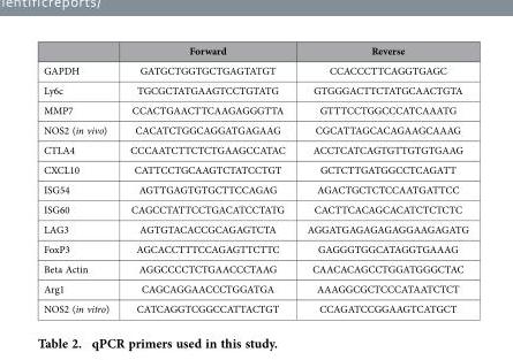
<table><thead><tr><td></td><td>Forward</td><td>Reverse</td></tr></thead><tbody><tr><td>GAPDH</td><td>GATGCTGGTGCTGAGTATGT</td><td>CCACCCTTCAGGTGAGC</td></tr><tr><td>Ly6c</td><td>TGCGCTATGAAGTCCTGTATG</td><td>GTGGGACTTCTATGCAACTGTA</td></tr><tr><td>MMP7</td><td>CCACTGAACTTCAAGAGGGTTA</td><td>GTTTCCTGGCCCATCAAATG</td></tr><tr><td>NOS2 (in vivo)</td><td>CACATCTGGCAGGATGAGAAG</td><td>CGCATTAGCACAGAAGCAAAG</td></tr><tr><td>CTLA4</td><td>CCCAATCTTCTCTGAAGCCATAC</td><td>ACCTCATCAGTGTTGTGTGAAG</td></tr><tr><td>CXCL10</td><td>CATTCCTGCAAGTCTATCCTGT</td><td>GCTCTTGATGGCCTCAGATT</td></tr><tr><td>ISG54</td><td>AGTTGAGTGTGCTTCCAGAG</td><td>AGACTGCTCTCCAATGATTCC</td></tr><tr><td>ISG60</td><td>CAGCCTATTCCTGACATCCTATG</td><td>CACTTCACAGCACATCTCTCTC</td></tr><tr><td>LAG3</td><td>AGTGTACACCGCAGAGTCTA</td><td>AGGATGAGAGAGAGGAAGAGATG</td></tr><tr><td>FoxP3</td><td>AGCACCTTTCCAGAGTTCTTC</td><td>GAGGGTGGCATAGGTGAAAG</td></tr><tr><td>Beta Actin</td><td>AGGCCCCTCTGAACCCTAAG</td><td>CAACACAGCCTGGATGGGCTAC</td></tr><tr><td>Arg1</td><td>CAGCAGGAACCCTGGATGA</td><td>AAAGGCGCTCCCATAATCTCT</td></tr><tr><td>NOS2 (in vitro)</td><td>CATCAGGTCGGCCATTACTGT</td><td>CCAGATCCGGAAGTCATGCT</td></tr></tbody></table>